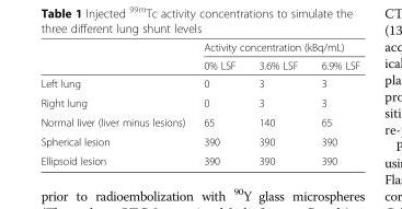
<table><thead><tr><td rowspan="2"></td><td colspan="3">Activity concentration (kBq/mL)</td></tr><tr><td>0% LSF</td><td>3.6% LSF</td><td>6.9% LSF</td></tr></thead><tbody><tr><td>Left lung</td><td>0</td><td>3</td><td>3</td></tr><tr><td>Right lung</td><td>0</td><td>3</td><td>3</td></tr><tr><td>Normal liver (liver minus lesions)</td><td>65</td><td>140</td><td>65</td></tr><tr><td>Spherical lesion</td><td>390</td><td>390</td><td>390</td></tr><tr><td>Ellipsoid lesion</td><td>390</td><td>390</td><td>390</td></tr></tbody></table>